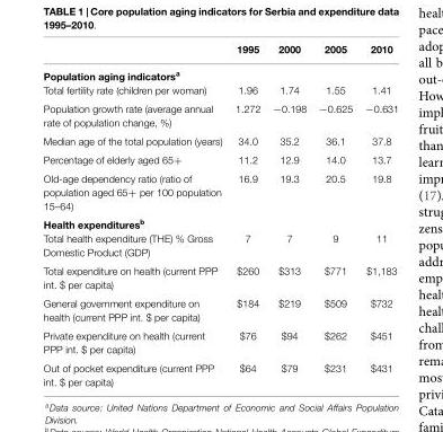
<table><thead><tr><td></td><td>1995</td><td>2000</td><td>2005</td><td>2010</td></tr></thead><tbody><tr><td colspan="5">Population aging indicators<sup>a</sup></td></tr><tr><td>Total fertility rate (children per woman)</td><td>1.96</td><td>1.74</td><td>1.55</td><td>1.41</td></tr><tr><td>Population growth rate (average annual rate of population change, %)</td><td>1.272</td><td>−0.198</td><td>−0.625</td><td>−0.631</td></tr><tr><td>Median age of the total population (years)</td><td>34.0</td><td>35.2</td><td>36.1</td><td>37.8</td></tr><tr><td>Percentage of elderly aged 65+</td><td>11.2</td><td>12.9</td><td>14.0</td><td>13.7</td></tr><tr><td>Old-age dependency ratio (ratio of population aged 65+ per 100 population 15–64)</td><td>16.9</td><td>19.3</td><td>20.5</td><td>19.8</td></tr><tr><td colspan="5">Health expenditures<sup>b</sup></td></tr><tr><td>Total health expenditure (THE) % Gross Domestic Product (GDP)</td><td>7</td><td>7</td><td>9</td><td>11</td></tr><tr><td>Total expenditure on health (current PPP int. $ per capita)</td><td>$260</td><td>$313</td><td>$771</td><td>$1,183</td></tr><tr><td>General government expenditure on health (current PPP int. $ per capita)</td><td>$184</td><td>$219</td><td>$509</td><td>$732</td></tr><tr><td>Private expenditure on health (current PPP int. $ per capita)</td><td>$76</td><td>$94</td><td>$262</td><td>$451</td></tr><tr><td>Out of pocket expenditure (current PPP int. $ per capita)</td><td>$64</td><td>$79</td><td>$231</td><td>$431</td></tr></tbody></table>